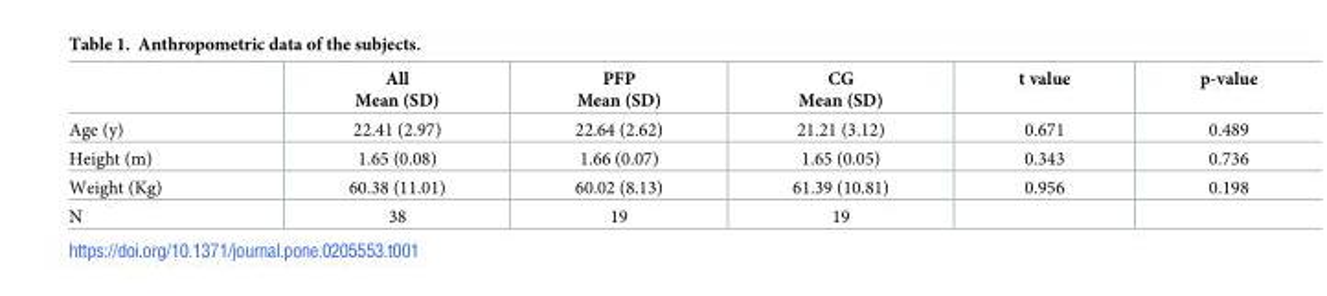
<table><thead><tr><td></td><td>All Mean (SD)</td><td>PFP Mean (SD)</td><td>CG Mean (SD)</td><td>t value</td><td>p-value</td></tr></thead><tbody><tr><td>Age (y)</td><td>22.41 (2.97)</td><td>22.64 (2.62)</td><td>21.21 (3.12)</td><td>0.671</td><td>0.489</td></tr><tr><td>Height (m)</td><td>1.65 (0.08)</td><td>1.66 (0.07)</td><td>1.65 (0.05)</td><td>0.343</td><td>0.736</td></tr><tr><td>Weight (Kg)</td><td>60.38 (11.01)</td><td>60.02 (8.13)</td><td>61.39 (10.81)</td><td>0.956</td><td>0.198</td></tr><tr><td>N</td><td>38</td><td>19</td><td>19</td><td></td><td></td></tr></tbody></table>